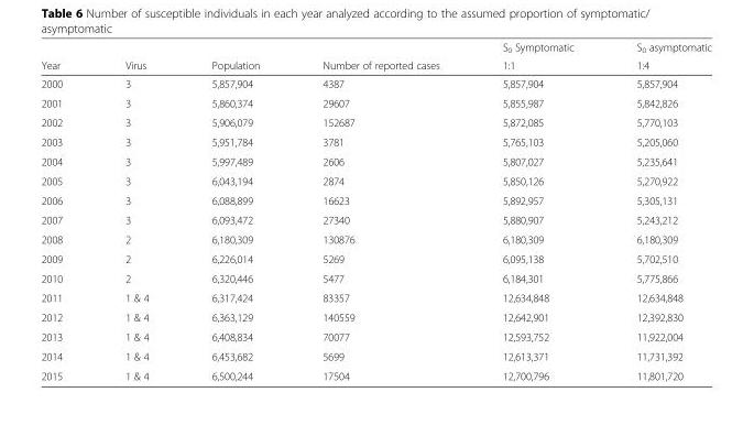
<table><thead><tr><td rowspan="2">Year</td><td rowspan="2">Virus</td><td rowspan="2">Population</td><td rowspan="2">Number of reported cases</td><td rowspan="2">S<sub>0</sub> Symptomatic 1:1</td><td rowspan="2">S<sub>0</sub> asymptomatic 1:4</td></tr><tr></tr></thead><tbody><tr><td>2000</td><td>3</td><td>5,857,904</td><td>4387</td><td>5,857,904</td><td>5,857,904</td></tr><tr><td>2001</td><td>3</td><td>5,860,374</td><td>29607</td><td>5,855,987</td><td>5,842,826</td></tr><tr><td>2002</td><td>3</td><td>5,906,079</td><td>152687</td><td>5,872,085</td><td>5,770,103</td></tr><tr><td>2003</td><td>3</td><td>5,951,784</td><td>3781</td><td>5,765,103</td><td>5,205,060</td></tr><tr><td>2004</td><td>3</td><td>5,997,489</td><td>2606</td><td>5,807,027</td><td>5,235,641</td></tr><tr><td>2005</td><td>3</td><td>6,043,194</td><td>2874</td><td>5,850,126</td><td>5,270,922</td></tr><tr><td>2006</td><td>3</td><td>6,088,899</td><td>16623</td><td>5,892,957</td><td>5,305,131</td></tr><tr><td>2007</td><td>3</td><td>6,093,472</td><td>27340</td><td>5,880,907</td><td>5,243,212</td></tr><tr><td>2008</td><td>2</td><td>6,180,309</td><td>130876</td><td>6,180,309</td><td>6,180,309</td></tr><tr><td>2009</td><td>2</td><td>6,226,014</td><td>5269</td><td>6,095,138</td><td>5,702,510</td></tr><tr><td>2010</td><td>2</td><td>6,320,446</td><td>5477</td><td>6,184,301</td><td>5,775,866</td></tr><tr><td>2011</td><td>1 &amp; 4</td><td>6,317,424</td><td>83357</td><td>12,634,848</td><td>12,634,848</td></tr><tr><td>2012</td><td>1 &amp; 4</td><td>6,363,129</td><td>140559</td><td>12,642,901</td><td>12,392,830</td></tr><tr><td>2013</td><td>1 &amp; 4</td><td>6,408,834</td><td>70077</td><td>12,593,752</td><td>11,922,004</td></tr><tr><td>2014</td><td>1 &amp; 4</td><td>6,453,682</td><td>5699</td><td>12,613,371</td><td>11,731,392</td></tr><tr><td>2015</td><td>1 &amp; 4</td><td>6,500,244</td><td>17504</td><td>12,700,796</td><td>11,801,720</td></tr></tbody></table>